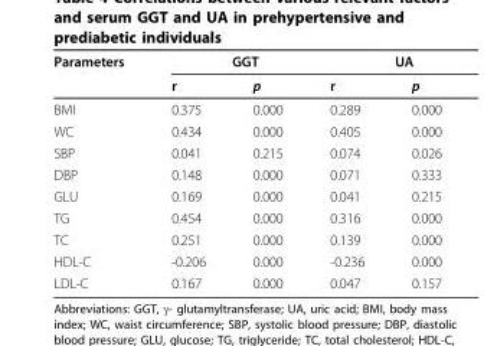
<table><thead><tr><td rowspan="2">Parameters</td><td colspan="2">GGT</td><td colspan="2">UA</td></tr><tr><td>r</td><td>p</td><td>r</td><td>p</td></tr></thead><tbody><tr><td>BMI</td><td>0.375</td><td>0.000</td><td>0.289</td><td>0.000</td></tr><tr><td>WC</td><td>0.434</td><td>0.000</td><td>0.405</td><td>0.000</td></tr><tr><td>SBP</td><td>0.041</td><td>0.215</td><td>0.074</td><td>0.026</td></tr><tr><td>DBP</td><td>0.148</td><td>0.000</td><td>0.071</td><td>0.333</td></tr><tr><td>GLU</td><td>0.169</td><td>0.000</td><td>0.041</td><td>0.215</td></tr><tr><td>TG</td><td>0.454</td><td>0.000</td><td>0.316</td><td>0.000</td></tr><tr><td>TC</td><td>0.251</td><td>0.000</td><td>0.139</td><td>0.000</td></tr><tr><td>HDL-C</td><td>-0.206</td><td>0.000</td><td>-0.236</td><td>0.000</td></tr><tr><td>LDL-C</td><td>0.167</td><td>0.000</td><td>0.047</td><td>0.157</td></tr></tbody></table>